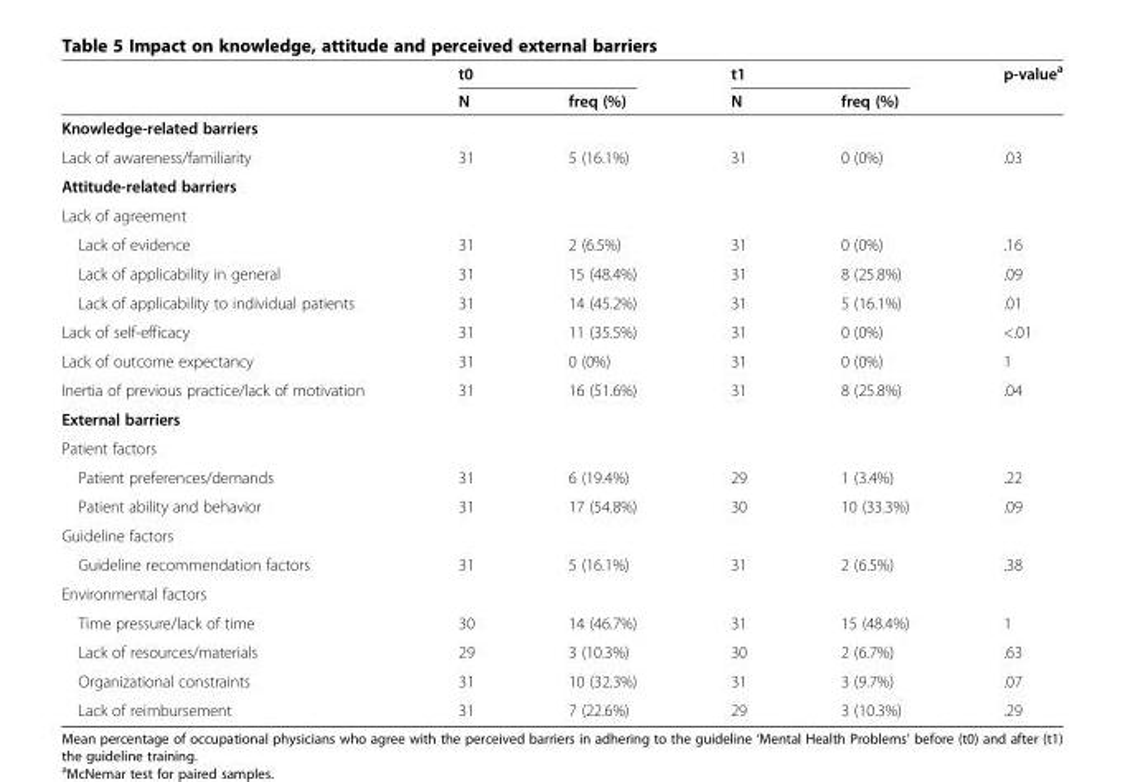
<table><thead><tr><td rowspan="2"></td><td colspan="2">t0</td><td colspan="2">t1</td><td rowspan="2">p-value<sup>a</sup></td></tr><tr><td>N</td><td>freq (%)</td><td>N</td><td>freq (%)</td></tr></thead><tbody><tr><td colspan="6">Knowledge-related barriers</td></tr><tr><td>Lack of awareness/familiarity</td><td>31</td><td>5 (16.1%)</td><td>31</td><td>0 (0%)</td><td>.03</td></tr><tr><td colspan="6">Attitude-related barriers</td></tr><tr><td colspan="6">Lack of agreement</td></tr><tr><td>Lack of evidence</td><td>31</td><td>2 (6.5%)</td><td>31</td><td>0 (0%)</td><td>.16</td></tr><tr><td>Lack of applicability in general</td><td>31</td><td>15 (48.4%)</td><td>31</td><td>8 (25.8%)</td><td>.09</td></tr><tr><td>Lack of applicability to individual patients</td><td>31</td><td>14 (45.2%)</td><td>31</td><td>5 (16.1%)</td><td>.01</td></tr><tr><td>Lack of self-efficacy</td><td>31</td><td>11 (35.5%)</td><td>31</td><td>0 (0%)</td><td>&lt;.01</td></tr><tr><td>Lack of outcome expectancy</td><td>31</td><td>0 (0%)</td><td>31</td><td>0 (0%)</td><td>1</td></tr><tr><td>Inertia of previous practice/lack of motivation</td><td>31</td><td>16 (51.6%)</td><td>31</td><td>8 (25.8%)</td><td>.04</td></tr><tr><td colspan="6">External barriers</td></tr><tr><td colspan="6">Patient factors</td></tr><tr><td>Patient preferences/demands</td><td>31</td><td>6 (19.4%)</td><td>29</td><td>1 (3.4%)</td><td>.22</td></tr><tr><td>Patient ability and behavior</td><td>31</td><td>17 (54.8%)</td><td>30</td><td>10 (33.3%)</td><td>.09</td></tr><tr><td colspan="6">Guideline factors</td></tr><tr><td>Guideline recommendation factors</td><td>31</td><td>5 (16.1%)</td><td>31</td><td>2 (6.5%)</td><td>.38</td></tr><tr><td colspan="6">Environmental factors</td></tr><tr><td>Time pressure/lack of time</td><td>30</td><td>14 (46.7%)</td><td>31</td><td>15 (48.4%)</td><td>1</td></tr><tr><td>Lack of resources/materials</td><td>29</td><td>3 (10.3%)</td><td>30</td><td>2 (6.7%)</td><td>.63</td></tr><tr><td>Organizational constraints</td><td>31</td><td>10 (32.3%)</td><td>31</td><td>3 (9.7%)</td><td>.07</td></tr><tr><td>Lack of reimbursement</td><td>31</td><td>7 (22.6%)</td><td>29</td><td>3 (10.3%)</td><td>.29</td></tr></tbody></table>